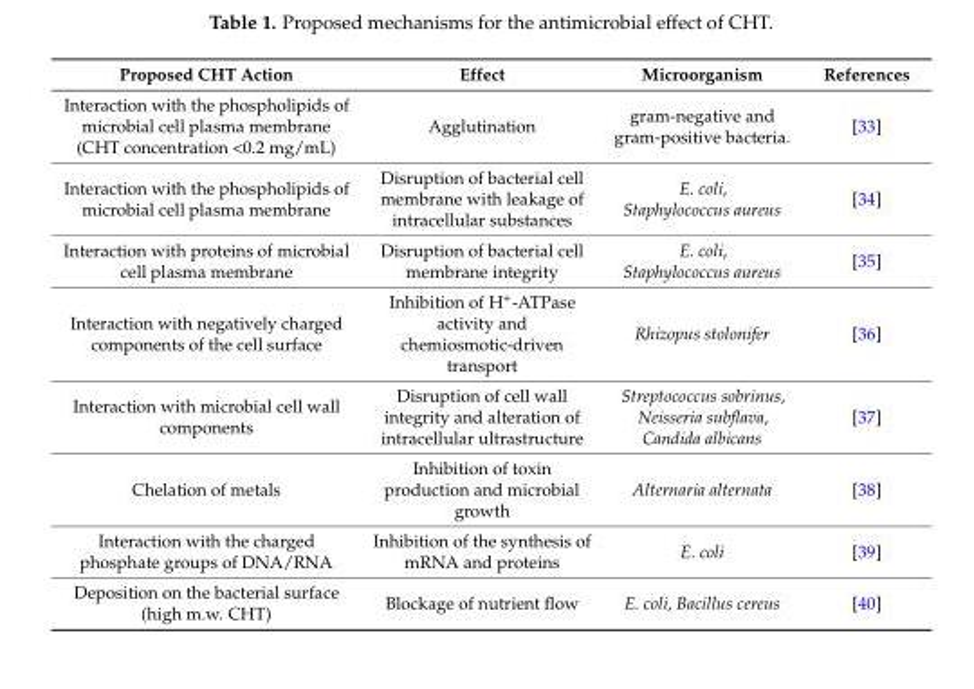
<table><thead><tr><td>Proposed CHT Action</td><td>Effect</td><td>Microorganism</td><td>References</td></tr></thead><tbody><tr><td>Interaction with the phospholipids of microbial cell plasma membrane (CHT concentration &lt;0.2 mg/mL)</td><td>Agglutination</td><td>gram-negative and gram-positive bacteria.</td><td>[33]</td></tr><tr><td>Interaction with the phospholipids of microbial cell plasma membrane</td><td>Disruption of bacterial cell membrane with leakage of intracellular substances</td><td>E. coli, Staphylococcus aureus</td><td>[34]</td></tr><tr><td>Interaction with proteins of microbial cell plasma membrane</td><td>Disruption of bacterial cell membrane integrity</td><td>E. coli, Staphylococcus aureus</td><td>[35]</td></tr><tr><td>Interaction with negatively charged components of the cell surface</td><td>Inhibition of H<sup>+</sup>-ATPase activity and chemiosmotic-driven transport</td><td>Rhizopus stolonifer</td><td>[36]</td></tr><tr><td>Interaction with microbial cell wall components</td><td>Disruption of cell wall integrity and alteration of intracellular ultrastructure</td><td>Streptococcus sobrinus, Neisseria subflava, Candida albicans</td><td>[37]</td></tr><tr><td>Chelation of metals</td><td>Inhibition of toxin production and microbial growth</td><td>Alternaria alternata</td><td>[38]</td></tr><tr><td>Interaction with the charged phosphate groups of DNA/RNA</td><td>Inhibition of the synthesis of mRNA and proteins</td><td>E. coli</td><td>[39]</td></tr><tr><td>Deposition on the bacterial surface (high m.w. CHT)</td><td>Blockage of nutrient flow</td><td>E. coli, Bacillus cereus</td><td>[40]</td></tr></tbody></table>